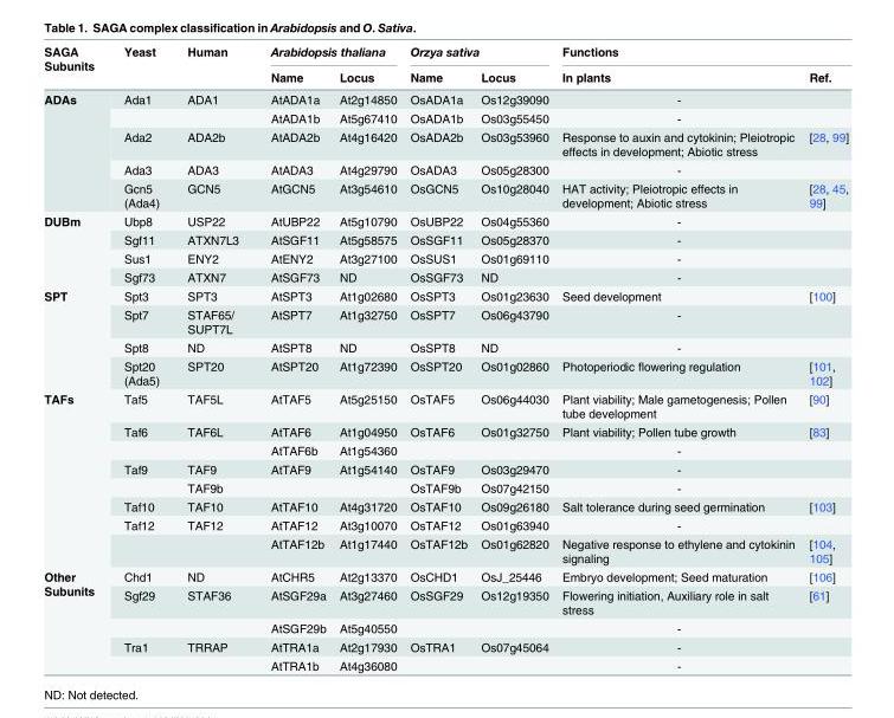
<table><thead><tr><td rowspan="2">SAGA Subunits</td><td rowspan="2">Yeast</td><td rowspan="2">Human</td><td colspan="2">Arabidopsis thaliana</td><td colspan="2">Orzya sativa</td><td colspan="2">Functions</td></tr><tr><td>Name</td><td>Locus</td><td>Name</td><td>Locus</td><td>In plants</td><td>Ref.</td></tr></thead><tbody><tr><td rowspan="5">ADAs</td><td>Ada1</td><td>ADA1</td><td>AtADA1a</td><td>At2g14850</td><td>OsADA1a</td><td>Os12g39090</td><td>-</td><td></td></tr><tr><td></td><td></td><td>AtADA1b</td><td>At5g67410</td><td>OsADA1b</td><td>Os03g55450</td><td>-</td><td></td></tr><tr><td>Ada2</td><td>ADA2b</td><td>AtADA2b</td><td>At4g16420</td><td>OsADA2b</td><td>Os03g53960</td><td>Response to auxin and cytokinin; Pleiotropic effects in development; Abiotic stress</td><td>[28, 99]</td></tr><tr><td>Ada3</td><td>ADA3</td><td>AtADA3</td><td>At4g29790</td><td>OsADA3</td><td>Os05g28300</td><td>-</td><td></td></tr><tr><td>Gcn5 (Ada4)</td><td>GCN5</td><td>AtGCN5</td><td>At3g54610</td><td>OsGCN5</td><td>Os10g28040</td><td>HAT activity; Pleiotropic effects in development; Abiotic stress</td><td>[28, 45, 99]</td></tr><tr><td rowspan="4">DUBm</td><td>Ubp8</td><td>USP22</td><td>AtUBP22</td><td>At5g10790</td><td>OsUBP22</td><td>Os04g55360</td><td>-</td><td></td></tr><tr><td>Sgf11</td><td>ATXN7L3</td><td>AtSGF11</td><td>At5g58575</td><td>OsSGF11</td><td>Os05g28370</td><td>-</td><td></td></tr><tr><td>Sus1</td><td>ENY2</td><td>AtENY2</td><td>At3g27100</td><td>OsSUS1</td><td>Os01g69110</td><td>-</td><td></td></tr><tr><td>Sgf73</td><td>ATXN7</td><td>AtSGF73</td><td>ND</td><td>OsSGF73</td><td>ND</td><td>-</td><td></td></tr><tr><td rowspan="4">SPT</td><td>Spt3</td><td>SPT3</td><td>AtSPT3</td><td>At1g02680</td><td>OsSPT3</td><td>Os01g23630</td><td>Seed development</td><td>[100]</td></tr><tr><td>Spt7</td><td>STAF65/ SUPT7L</td><td>AtSPT7</td><td>At1g32750</td><td>OsSPT7</td><td>Os06g43790</td><td>-</td><td></td></tr><tr><td>Spt8</td><td>ND</td><td>AtSPT8</td><td>ND</td><td>OsSPT8</td><td>ND</td><td>-</td><td></td></tr><tr><td>Spt20 (Ada5)</td><td>SPT20</td><td>AtSPT20</td><td>At1g72390</td><td>OsSPT20</td><td>Os01g02860</td><td>Photoperiodic flowering regulation</td><td>[101, 102]</td></tr><tr><td rowspan="8">TAFs</td><td>Taf5</td><td>TAF5L</td><td>AtTAF5</td><td>At5g25150</td><td>OsTAF5</td><td>Os06g44030</td><td>Plant viability; Male gametogenesis; Pollen tube development</td><td>[90]</td></tr><tr><td>Taf6</td><td>TAF6L</td><td>AtTAF6</td><td>At1g04950</td><td>OsTAF6</td><td>Os01g32750</td><td>Plant viability; Pollen tube growth</td><td>[83]</td></tr><tr><td></td><td></td><td>AtTAF6b</td><td>At1g54360</td><td></td><td></td><td>-</td><td></td></tr><tr><td>Taf9</td><td>TAF9</td><td>AtTAF9</td><td>At1g54140</td><td>OsTAF9</td><td>Os03g29470</td><td>-</td><td></td></tr><tr><td></td><td>TAF9b</td><td></td><td></td><td>OsTAF9b</td><td>Os07g42150</td><td>-</td><td></td></tr><tr><td>Taf10</td><td>TAF10</td><td>AtTAF10</td><td>At4g31720</td><td>OsTAF10</td><td>Os09g26180</td><td>Salt tolerance during seed germination</td><td>[103]</td></tr><tr><td>Taf12</td><td>TAF12</td><td>AtTAF12</td><td>At3g10070</td><td>OsTAF12</td><td>Os01g63940</td><td>-</td><td></td></tr><tr><td></td><td></td><td>AtTAF12b</td><td>At1g17440</td><td>OsTAF12b</td><td>Os01g62820</td><td>Negative response to ethylene and cytokinin signaling</td><td>[104, 105]</td></tr><tr><td rowspan="5">Other Subunits</td><td>Chd1</td><td>ND</td><td>AtCHR5</td><td>At2g13370</td><td>OsCHD1</td><td>OsJ_25446</td><td>Embryo development; Seed maturation</td><td>[106]</td></tr><tr><td>Sgf29</td><td>STAF36</td><td>AtSGF29a</td><td>At3g27460</td><td>OsSGF29</td><td>Os12g19350</td><td>Flowering initiation, Auxiliary role in salt stress</td><td>[61]</td></tr><tr><td></td><td></td><td>AtSGF29b</td><td>At5g40550</td><td></td><td></td><td>-</td><td></td></tr><tr><td>Tra1</td><td>TRRAP</td><td>AtTRA1a</td><td>At2g17930</td><td>OsTRA1</td><td>Os07g45064</td><td>-</td><td></td></tr><tr><td></td><td></td><td>AtTRA1b</td><td>At4g36080</td><td></td><td></td><td>-</td><td></td></tr></tbody></table>